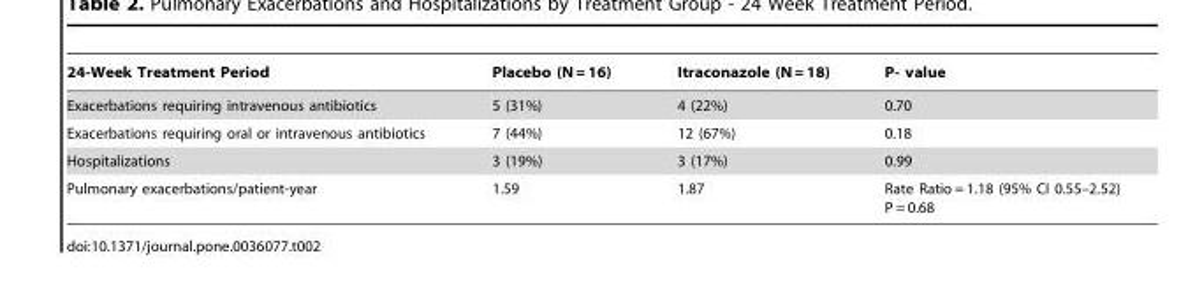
<table><thead><tr><td>24-Week Treatment Period</td><td>Placebo (N = 16)</td><td>Itraconazole (N = 18)</td><td>P- value</td></tr></thead><tbody><tr><td>Exacerbations requiring intravenous antibiotics</td><td>5 (31%)</td><td>4 (22%)</td><td>0.70</td></tr><tr><td>Exacerbations requiring oral or intravenous antibiotics</td><td>7 (44%)</td><td>12 (67%)</td><td>0.18</td></tr><tr><td>Hospitalizations</td><td>3 (19%)</td><td>3 (17%)</td><td>0.99</td></tr><tr><td>Pulmonary exacerbations/patient-year</td><td>1.59</td><td>1.87</td><td>Rate Ratio = 1.18 (95% CI 0.55–2.52) P = 0.68</td></tr></tbody></table>